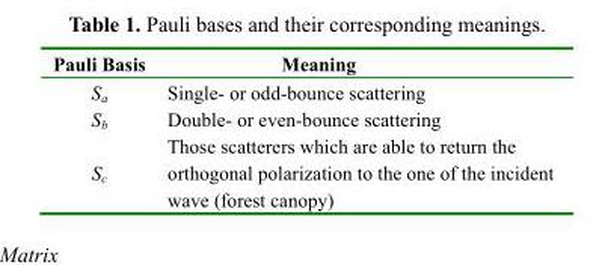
<table><thead><tr><td>Pauli Basis</td><td>Meaning</td></tr></thead><tbody><tr><td>S<sub>a</sub></td><td>Single- or odd-bounce scattering</td></tr><tr><td>S<sub>b</sub></td><td>Double- or even-bounce scattering</td></tr><tr><td>S<sub>c</sub></td><td>Those scatterers which are able to return the orthogonal polarization to the one of the incident wave (forest canopy)</td></tr></tbody></table>